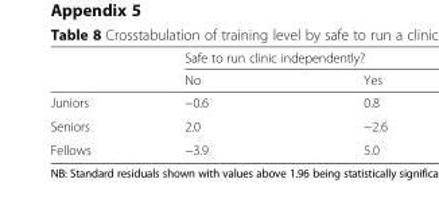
<table><thead><tr><td rowspan="2"></td><td colspan="2">Safe to run clinic independently?</td></tr><tr><td>No</td><td>Yes</td></tr></thead><tbody><tr><td>Juniors</td><td>−0.6</td><td>0.8</td></tr><tr><td>Seniors</td><td>2.0</td><td>−2.6</td></tr><tr><td>Fellows</td><td>−3.9</td><td>5.0</td></tr></tbody></table>